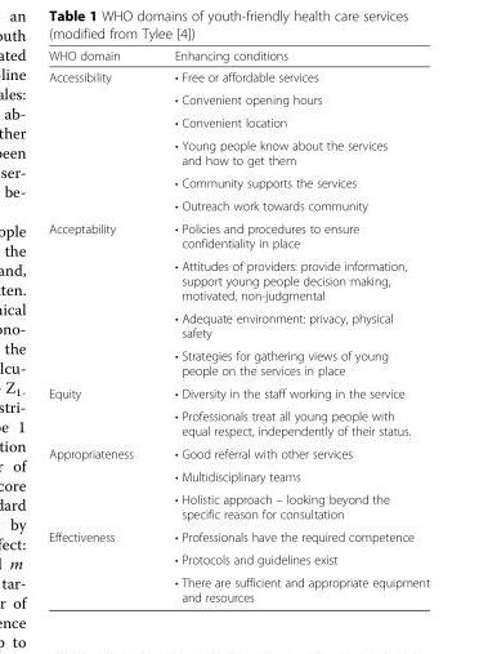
<table><thead><tr><td>WHO domain</td><td>Enhancing conditions</td></tr></thead><tbody><tr><td rowspan="6">Accessibility</td><td>• Free or affordable services</td></tr><tr><td>• Convenient opening hours</td></tr><tr><td>• Convenient location</td></tr><tr><td>• Young people know about the services and how to get them</td></tr><tr><td>• Community supports the services</td></tr><tr><td>• Outreach work towards community</td></tr><tr><td rowspan="4">Acceptability</td><td>• Policies and procedures to ensure confidentiality in place</td></tr><tr><td>• Attitudes of providers: provide information, support young people decision making, motivated, non-judgmental</td></tr><tr><td>• Adequate environment: privacy, physical safety</td></tr><tr><td>• Strategies for gathering views of young people on the services in place</td></tr><tr><td rowspan="2">Equity</td><td>• Diversity in the staff working in the service</td></tr><tr><td>• Professionals treat all young people with equal respect, independently of their status.</td></tr><tr><td rowspan="3">Appropriateness</td><td>• Good referral with other services</td></tr><tr><td>• Multidisciplinary teams</td></tr><tr><td>• Holistic approach – looking beyond the specific reason for consultation</td></tr><tr><td rowspan="3">Effectiveness</td><td>• Professionals have the required competence</td></tr><tr><td>• Protocols and guidelines exist</td></tr><tr><td>• There are sufficient and appropriate equipment and resources</td></tr></tbody></table>